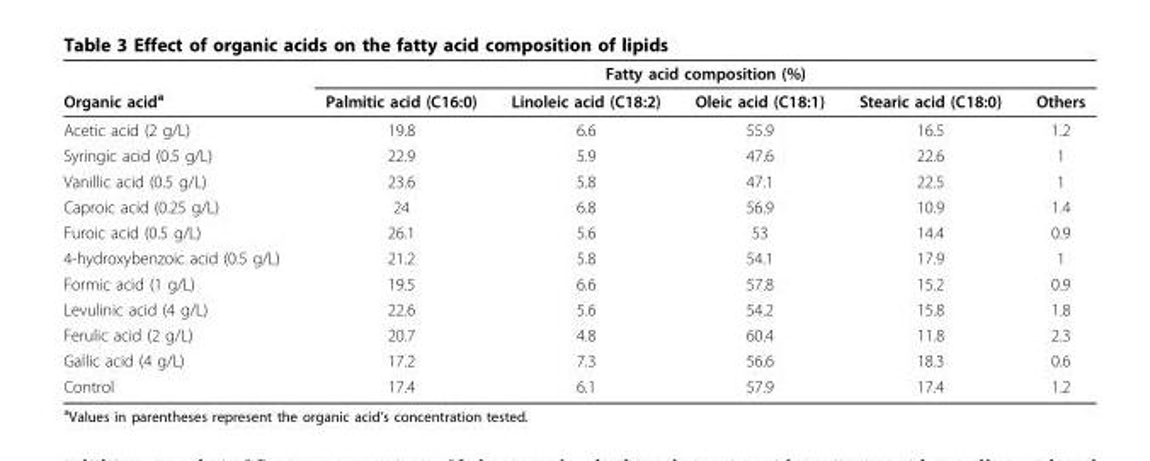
<table><thead><tr><td rowspan="2">Organic acid<sup>a</sup></td><td colspan="5">Fatty acid composition (%)</td></tr><tr><td>Palmitic acid (C16:0)</td><td>Linoleic acid (C18:2)</td><td>Oleic acid (C18:1)</td><td>Stearic acid (C18:0)</td><td>Others</td></tr></thead><tbody><tr><td>Acetic acid (2 g/L)</td><td>19.8</td><td>6.6</td><td>55.9</td><td>16.5</td><td>1.2</td></tr><tr><td>Syringic acid (0.5 g/L)</td><td>22.9</td><td>5.9</td><td>47.6</td><td>22.6</td><td>1</td></tr><tr><td>Vanillic acid (0.5 g/L)</td><td>23.6</td><td>5.8</td><td>47.1</td><td>22.5</td><td>1</td></tr><tr><td>Caproic acid (0.25 g/L)</td><td>24</td><td>6.8</td><td>56.9</td><td>10.9</td><td>1.4</td></tr><tr><td>Furoic acid (0.5 g/L)</td><td>26.1</td><td>5.6</td><td>53</td><td>14.4</td><td>0.9</td></tr><tr><td>4-hydroxybenzoic acid (0.5 g/L)</td><td>21.2</td><td>5.8</td><td>54.1</td><td>17.9</td><td>1</td></tr><tr><td>Formic acid (1 g/L)</td><td>19.5</td><td>6.6</td><td>57.8</td><td>15.2</td><td>0.9</td></tr><tr><td>Levulinic acid (4 g/L)</td><td>22.6</td><td>5.6</td><td>54.2</td><td>15.8</td><td>1.8</td></tr><tr><td>Ferulic acid (2 g/L)</td><td>20.7</td><td>4.8</td><td>60.4</td><td>11.8</td><td>2.3</td></tr><tr><td>Gallic acid (4 g/L)</td><td>17.2</td><td>7.3</td><td>56.6</td><td>18.3</td><td>0.6</td></tr><tr><td>Control</td><td>17.4</td><td>6.1</td><td>57.9</td><td>17.4</td><td>1.2</td></tr></tbody></table>